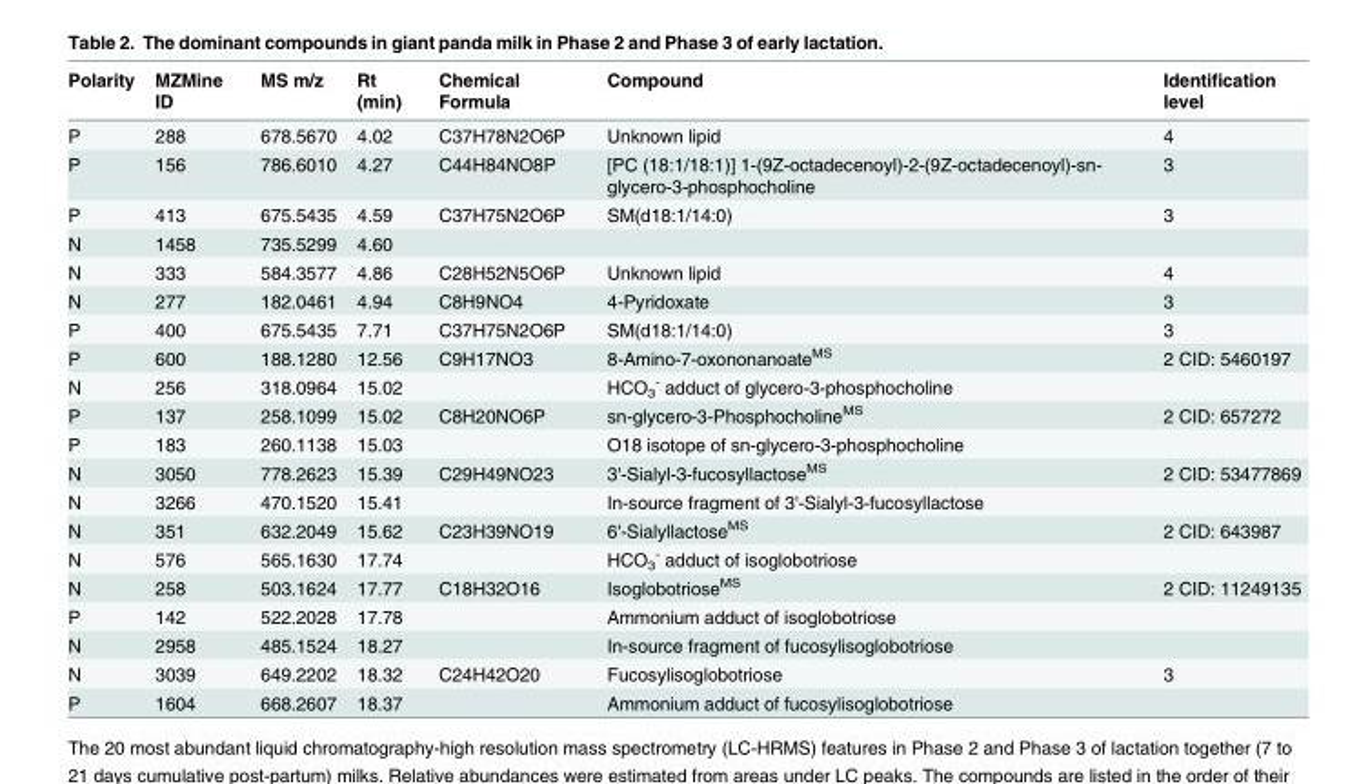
<table><thead><tr><td>Polarity</td><td>MZMine ID</td><td>MS m/z</td><td>Rt (min)</td><td>Chemical Formula</td><td>Compound</td><td>Identification level</td></tr></thead><tbody><tr><td>P</td><td>288</td><td>678.5670</td><td>4.02</td><td>C37H78N2O6P</td><td>Unknown lipid</td><td>4</td></tr><tr><td>P</td><td>156</td><td>786.6010</td><td>4.27</td><td>C44H84NO8P</td><td>[PC (18:1/18:1)] 1-(9Z-octadecenoyl)-2-(9Z-octadecenoyl)-sn- glycero-3-phosphocholine</td><td>3</td></tr><tr><td>P</td><td>413</td><td>675.5435</td><td>4.59</td><td>C37H75N2O6P</td><td>SM(d18:1/14:0)</td><td>3</td></tr><tr><td>N</td><td>1458</td><td>735.5299</td><td>4.60</td><td></td><td></td><td></td></tr><tr><td>N</td><td>333</td><td>584.3577</td><td>4.86</td><td>C28H52N5O6P</td><td>Unknown lipid</td><td>4</td></tr><tr><td>N</td><td>277</td><td>182.0461</td><td>4.94</td><td>C8H9NO4</td><td>4-Pyridoxate</td><td>3</td></tr><tr><td>P</td><td>400</td><td>675.5435</td><td>7.71</td><td>C37H75N2O6P</td><td>SM(d18:1/14:0)</td><td>3</td></tr><tr><td>P</td><td>600</td><td>188.1280</td><td>12.56</td><td>C9H17NO3</td><td>8-Amino-7-oxononanoate<sup>MS</sup></td><td>2 CID: 5460197</td></tr><tr><td>N</td><td>256</td><td>318.0964</td><td>15.02</td><td></td><td>HCO<sub>3</sub> <sup>-</sup> adduct of glycero-3-phosphocholine</td><td></td></tr><tr><td>P</td><td>137</td><td>258.1099</td><td>15.02</td><td>C8H20NO6P</td><td>sn-glycero-3-Phosphocholine<sup>MS</sup></td><td>2 CID: 657272</td></tr><tr><td>P</td><td>183</td><td>260.1138</td><td>15.03</td><td></td><td>O18 isotope of sn-glycero-3-phosphocholine</td><td></td></tr><tr><td>N</td><td>3050</td><td>778.2623</td><td>15.39</td><td>C29H49NO23</td><td>3&#x27;-Sialyl-3-fucosyllactose<sup>MS</sup></td><td>2 CID: 53477869</td></tr><tr><td>N</td><td>3266</td><td>470.1520</td><td>15.41</td><td></td><td>In-source fragment of 3&#x27;-Sialyl-3-fucosyllactose</td><td></td></tr><tr><td>N</td><td>351</td><td>632.2049</td><td>15.62</td><td>C23H39NO19</td><td>6&#x27;-Sialyllactose<sup>MS</sup></td><td>2 CID: 643987</td></tr><tr><td>N</td><td>576</td><td>565.1630</td><td>17.74</td><td></td><td>HCO<sub>3</sub> <sup>-</sup> adduct of isoglobotriose</td><td></td></tr><tr><td>N</td><td>258</td><td>503.1624</td><td>17.77</td><td>C18H32O16</td><td>Isoglobotriose<sup>MS</sup></td><td>2 CID: 11249135</td></tr><tr><td>P</td><td>142</td><td>522.2028</td><td>17.78</td><td></td><td>Ammonium adduct of isoglobotriose</td><td></td></tr><tr><td>N</td><td>2958</td><td>485.1524</td><td>18.27</td><td></td><td>In-source fragment of fucosylisoglobotriose</td><td></td></tr><tr><td>N</td><td>3039</td><td>649.2202</td><td>18.32</td><td>C24H42O20</td><td>Fucosylisoglobotriose</td><td>3</td></tr><tr><td>P</td><td>1604</td><td>668.2607</td><td>18.37</td><td></td><td>Ammonium adduct of fucosylisoglobotriose</td><td></td></tr></tbody></table>